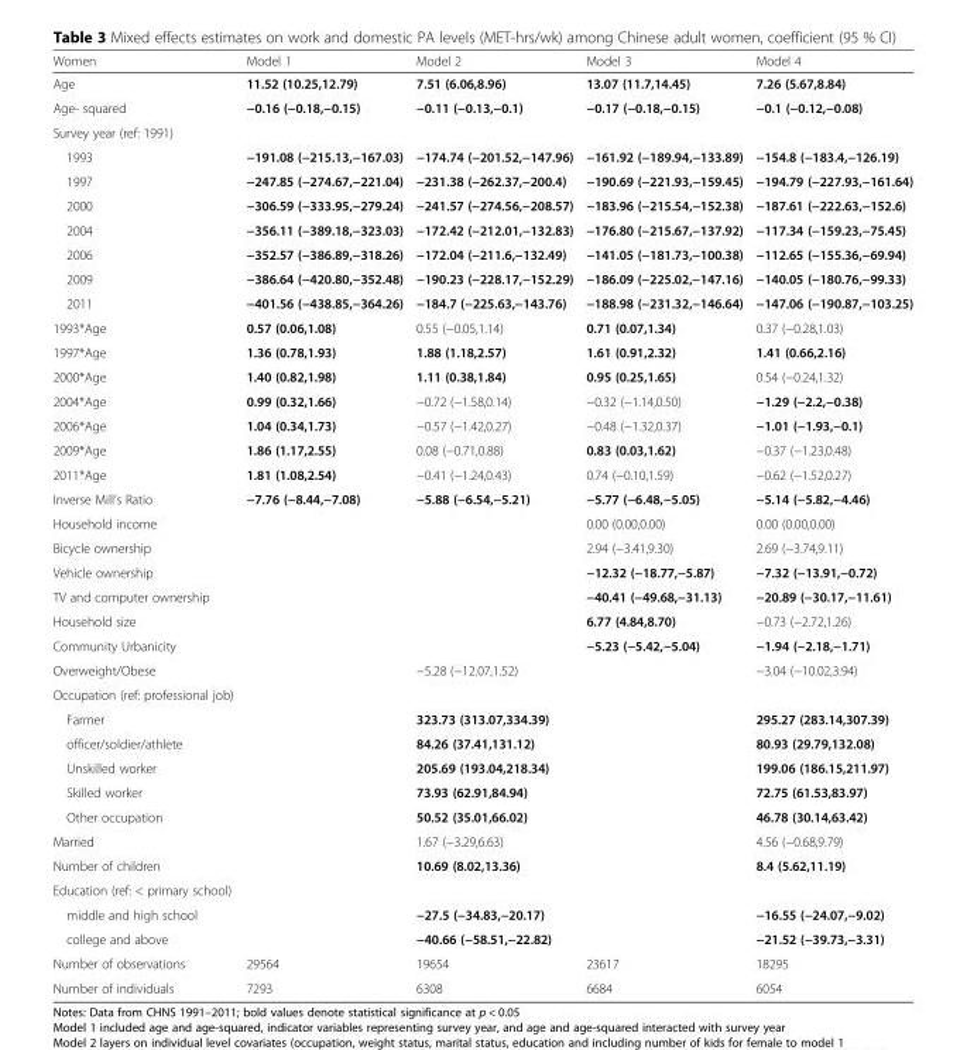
<table><thead><tr><td>Women</td><td>Model 1</td><td>Model 2</td><td>Model 3</td><td>Model 4</td></tr></thead><tbody><tr><td>Age</td><td>11.52 (10.25,12.79)</td><td>7.51 (6.06,8.96)</td><td>13.07 (11.7,14.45)</td><td>7.26 (5.67,8.84)</td></tr><tr><td>Age- squared</td><td>−0.16 (−0.18,−0.15)</td><td>−0.11 (−0.13,−0.1)</td><td>−0.17 (−0.18,−0.15)</td><td>−0.1 (−0.12,−0.08)</td></tr><tr><td colspan="5">Survey year (ref: 1991)</td></tr><tr><td>1993</td><td>−191.08 (−215.13,−167.03)</td><td>−174.74 (−201.52,−147.96)</td><td>−161.92 (−189.94,−133.89)</td><td>−154.8 (−183.4,−126.19)</td></tr><tr><td>1997</td><td>−247.85 (−274.67,−221.04)</td><td>−231.38 (−262.37,−200.4)</td><td>−190.69 (−221.93,−159.45)</td><td>−194.79 (−227.93,−161.64)</td></tr><tr><td>2000</td><td>−306.59 (−333.95,−279.24)</td><td>−241.57 (−274.56,−208.57)</td><td>−183.96 (−215.54,−152.38)</td><td>−187.61 (−222.63,−152.6)</td></tr><tr><td>2004</td><td>−356.11 (−389.18,−323.03)</td><td>−172.42 (−212.01,−132.83)</td><td>−176.80 (−215.67,−137.92)</td><td>−117.34 (−159.23,−75.45)</td></tr><tr><td>2006</td><td>−352.57 (−386.89,−318.26)</td><td>−172.04 (−211.6,−132.49)</td><td>−141.05 (−181.73,−100.38)</td><td>−112.65 (−155.36,−69.94)</td></tr><tr><td>2009</td><td>−386.64 (−420.80,−352.48)</td><td>−190.23 (−228.17,−152.29)</td><td>−186.09 (−225.02,−147.16)</td><td>−140.05 (−180.76,−99.33)</td></tr><tr><td>2011</td><td>−401.56 (−438.85,−364.26)</td><td>−184.7 (−225.63,−143.76)</td><td>−188.98 (−231.32,−146.64)</td><td>−147.06 (−190.87,−103.25)</td></tr><tr><td>1993*Age</td><td>0.57 (0.06,1.08)</td><td>0.55 (−0.05,1.14)</td><td>0.71 (0.07,1.34)</td><td>0.37 (−0.28,1.03)</td></tr><tr><td>1997*Age</td><td>1.36 (0.78,1.93)</td><td>1.88 (1.18,2.57)</td><td>1.61 (0.91,2.32)</td><td>1.41 (0.66,2.16)</td></tr><tr><td>2000*Age</td><td>1.40 (0.82,1.98)</td><td>1.11 (0.38,1.84)</td><td>0.95 (0.25,1.65)</td><td>0.54 (−0.24,1.32)</td></tr><tr><td>2004*Age</td><td>0.99 (0.32,1.66)</td><td>−0.72 (−1.58,0.14)</td><td>−0.32 (−1.14,0.50)</td><td>−1.29 (−2.2,−0.38)</td></tr><tr><td>2006*Age</td><td>1.04 (0.34,1.73)</td><td>−0.57 (−1.42,0.27)</td><td>−0.48 (−1.32,0.37)</td><td>−1.01 (−1.93,−0.1)</td></tr><tr><td>2009*Age</td><td>1.86 (1.17,2.55)</td><td>0.08 (−0.71,0.88)</td><td>0.83 (0.03,1.62)</td><td>−0.37 (−1.23,0.48)</td></tr><tr><td>2011*Age</td><td>1.81 (1.08,2.54)</td><td>−0.41 (−1.24,0.43)</td><td>0.74 (−0.10,1.59)</td><td>−0.62 (−1.52,0.27)</td></tr><tr><td>Inverse Mill’s Ratio</td><td>−7.76 (−8.44,−7.08)</td><td>−5.88 (−6.54,−5.21)</td><td>−5.77 (−6.48,−5.05)</td><td>−5.14 (−5.82,−4.46)</td></tr><tr><td>Household income</td><td></td><td></td><td>0.00 (0.00,0.00)</td><td>0.00 (0.00,0.00)</td></tr><tr><td>Bicycle ownership</td><td></td><td></td><td>2.94 (−3.41,9.30)</td><td>2.69 (−3.74,9.11)</td></tr><tr><td>Vehicle ownership</td><td></td><td></td><td>−12.32 (−18.77,−5.87)</td><td>−7.32 (−13.91,−0.72)</td></tr><tr><td>TV and computer ownership</td><td></td><td></td><td>−40.41 (−49.68,−31.13)</td><td>−20.89 (−30.17,−11.61)</td></tr><tr><td>Household size</td><td></td><td></td><td>6.77 (4.84,8.70)</td><td>−0.73 (−2.72,1.26)</td></tr><tr><td>Community Urbanicity</td><td></td><td></td><td>−5.23 (−5.42,−5.04)</td><td>−1.94 (−2.18,−1.71)</td></tr><tr><td>Overweight/Obese</td><td></td><td>−5.28 (−12.07,1.52)</td><td></td><td>−3.04 (−10.02,3.94)</td></tr><tr><td colspan="5">Occupation (ref: professional job)</td></tr><tr><td>Farmer</td><td></td><td>323.73 (313.07,334.39)</td><td></td><td>295.27 (283.14,307.39)</td></tr><tr><td>officer/soldier/athlete</td><td></td><td>84.26 (37.41,131.12)</td><td></td><td>80.93 (29.79,132.08)</td></tr><tr><td>Unskilled worker</td><td></td><td>205.69 (193.04,218.34)</td><td></td><td>199.06 (186.15,211.97)</td></tr><tr><td>Skilled worker</td><td></td><td>73.93 (62.91,84.94)</td><td></td><td>72.75 (61.53,83.97)</td></tr><tr><td>Other occupation</td><td></td><td>50.52 (35.01,66.02)</td><td></td><td>46.78 (30.14,63.42)</td></tr><tr><td>Married</td><td></td><td>1.67 (−3.29,6.63)</td><td></td><td>4.56 (−0.68,9.79)</td></tr><tr><td>Number of children</td><td></td><td>10.69 (8.02,13.36)</td><td></td><td>8.4 (5.62,11.19)</td></tr><tr><td colspan="5">Education (ref: &lt; primary school)</td></tr><tr><td>middle and high school</td><td></td><td>−27.5 (−34.83,−20.17)</td><td></td><td>−16.55 (−24.07,−9.02)</td></tr><tr><td>college and above</td><td></td><td>−40.66 (−58.51,−22.82)</td><td></td><td>−21.52 (−39.73,−3.31)</td></tr><tr><td>Number of observations</td><td>29564</td><td>19654</td><td>23617</td><td>18295</td></tr><tr><td>Number of individuals</td><td>7293</td><td>6308</td><td>6684</td><td>6054</td></tr></tbody></table>